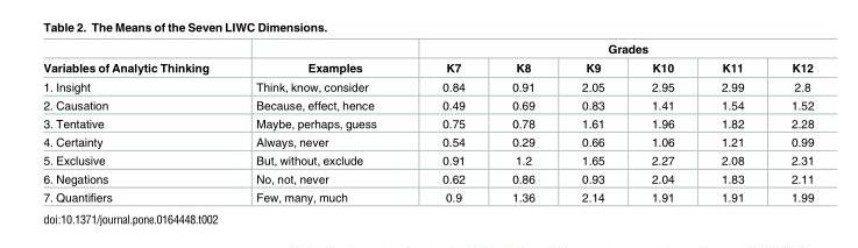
<table><thead><tr><td rowspan="2">Variables of Analytic Thinking</td><td rowspan="2">Examples</td><td colspan="6">Grades</td></tr><tr><td>K7</td><td>K8</td><td>K9</td><td>K10</td><td>K11</td><td>K12</td></tr></thead><tbody><tr><td>1. Insight</td><td>Think, know, consider</td><td>0.84</td><td>0.91</td><td>2.05</td><td>2.95</td><td>2.99</td><td>2.8</td></tr><tr><td>2. Causation</td><td>Because, effect, hence</td><td>0.49</td><td>0.69</td><td>0.83</td><td>1.41</td><td>1.54</td><td>1.52</td></tr><tr><td>3. Tentative</td><td>Maybe, perhaps, guess</td><td>0.75</td><td>0.78</td><td>1.61</td><td>1.96</td><td>1.82</td><td>2.28</td></tr><tr><td>4. Certainty</td><td>Always, never</td><td>0.54</td><td>0.29</td><td>0.66</td><td>1.06</td><td>1.21</td><td>0.99</td></tr><tr><td>5. Exclusive</td><td>But, without, exclude</td><td>0.91</td><td>1.2</td><td>1.65</td><td>2.27</td><td>2.08</td><td>2.31</td></tr><tr><td>6. Negations</td><td>No, not, never</td><td>0.62</td><td>0.86</td><td>0.93</td><td>2.04</td><td>1.83</td><td>2.11</td></tr><tr><td>7. Quantifiers</td><td>Few, many, much</td><td>0.9</td><td>1.36</td><td>2.14</td><td>1.91</td><td>1.91</td><td>1.99</td></tr></tbody></table>